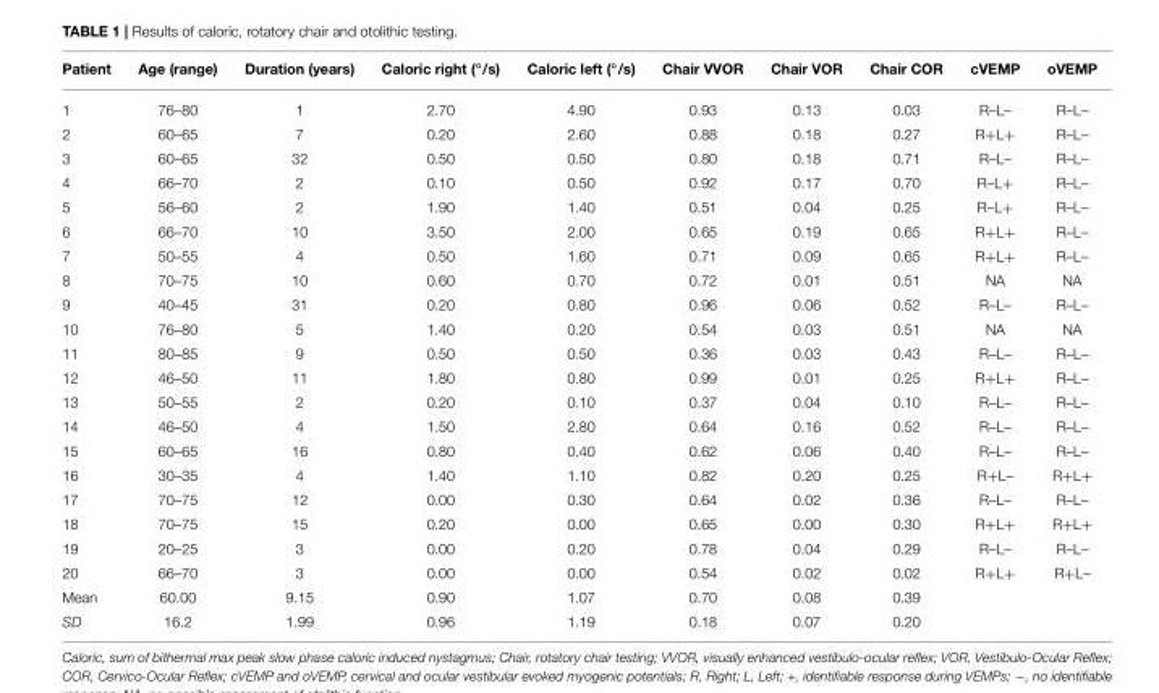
<table><thead><tr><td>Patient</td><td>Age (range)</td><td>Duration (years)</td><td>Caloric right (◦/s)</td><td>Caloric left (◦/s)</td><td>Chair VVOR</td><td>Chair VOR</td><td>Chair COR</td><td>cVEMP</td><td>oVEMP</td></tr></thead><tbody><tr><td>1</td><td>76–80</td><td>1</td><td>2.70</td><td>4.90</td><td>0.93</td><td>0.13</td><td>0.03</td><td>R–L–</td><td>R–L–</td></tr><tr><td>2</td><td>60–65</td><td>7</td><td>0.20</td><td>2.60</td><td>0.88</td><td>0.18</td><td>0.27</td><td>R+L+</td><td>R–L–</td></tr><tr><td>3</td><td>60–65</td><td>32</td><td>0.50</td><td>0.50</td><td>0.80</td><td>0.18</td><td>0.71</td><td>R–L–</td><td>R–L–</td></tr><tr><td>4</td><td>66–70</td><td>2</td><td>0.10</td><td>0.50</td><td>0.92</td><td>0.17</td><td>0.70</td><td>R–L+</td><td>R–L–</td></tr><tr><td>5</td><td>56–60</td><td>2</td><td>1.90</td><td>1.40</td><td>0.51</td><td>0.04</td><td>0.25</td><td>R–L+</td><td>R–L–</td></tr><tr><td>6</td><td>66–70</td><td>10</td><td>3.50</td><td>2.00</td><td>0.65</td><td>0.19</td><td>0.65</td><td>R+L+</td><td>R–L–</td></tr><tr><td>7</td><td>50–55</td><td>4</td><td>0.50</td><td>1.60</td><td>0.71</td><td>0.09</td><td>0.65</td><td>R+L+</td><td>R–L–</td></tr><tr><td>8</td><td>70–75</td><td>10</td><td>0.60</td><td>0.70</td><td>0.72</td><td>0.01</td><td>0.51</td><td>NA</td><td>NA</td></tr><tr><td>9</td><td>40–45</td><td>31</td><td>0.20</td><td>0.80</td><td>0.96</td><td>0.06</td><td>0.52</td><td>R–L–</td><td>R–L–</td></tr><tr><td>10</td><td>76–80</td><td>5</td><td>1.40</td><td>0.20</td><td>0.54</td><td>0.03</td><td>0.51</td><td>NA</td><td>NA</td></tr><tr><td>11</td><td>80–85</td><td>9</td><td>0.50</td><td>0.50</td><td>0.36</td><td>0.03</td><td>0.43</td><td>R–L–</td><td>R–L–</td></tr><tr><td>12</td><td>46–50</td><td>11</td><td>1.80</td><td>0.80</td><td>0.99</td><td>0.01</td><td>0.25</td><td>R+L+</td><td>R–L–</td></tr><tr><td>13</td><td>50–55</td><td>2</td><td>0.20</td><td>0.10</td><td>0.37</td><td>0.04</td><td>0.10</td><td>R–L–</td><td>R–L–</td></tr><tr><td>14</td><td>46–50</td><td>4</td><td>1.50</td><td>2.80</td><td>0.64</td><td>0.16</td><td>0.52</td><td>R–L–</td><td>R–L–</td></tr><tr><td>15</td><td>60–65</td><td>16</td><td>0.80</td><td>0.40</td><td>0.62</td><td>0.06</td><td>0.40</td><td>R–L–</td><td>R–L–</td></tr><tr><td>16</td><td>30–35</td><td>4</td><td>1.40</td><td>1.10</td><td>0.82</td><td>0.20</td><td>0.25</td><td>R+L–</td><td>R+L+</td></tr><tr><td>17</td><td>70–75</td><td>12</td><td>0.00</td><td>0.30</td><td>0.64</td><td>0.02</td><td>0.36</td><td>R–L–</td><td>R–L–</td></tr><tr><td>18</td><td>70–75</td><td>15</td><td>0.20</td><td>0.00</td><td>0.65</td><td>0.00</td><td>0.30</td><td>R+L+</td><td>R+L+</td></tr><tr><td>19</td><td>20–25</td><td>3</td><td>0.00</td><td>0.20</td><td>0.78</td><td>0.04</td><td>0.29</td><td>R–L–</td><td>R–L–</td></tr><tr><td>20</td><td>66–70</td><td>3</td><td>0.00</td><td>0.00</td><td>0.54</td><td>0.02</td><td>0.02</td><td>R+L+</td><td>R+L–</td></tr><tr><td>Mean</td><td>60.00</td><td>9.15</td><td>0.90</td><td>1.07</td><td>0.70</td><td>0.08</td><td>0.39</td><td></td><td></td></tr><tr><td>SD</td><td>16.2</td><td>1.99</td><td>0.96</td><td>1.19</td><td>0.18</td><td>0.07</td><td>0.20</td><td></td><td></td></tr></tbody></table>